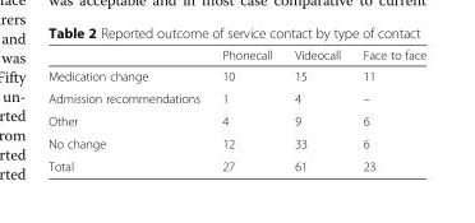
<table><thead><tr><td></td><td>Phonecall</td><td>Videocall</td><td>Face to face</td></tr></thead><tbody><tr><td>Medication change</td><td>10</td><td>15</td><td>11</td></tr><tr><td>Admission recommendations</td><td>1</td><td>4</td><td>–</td></tr><tr><td>Other</td><td>4</td><td>9</td><td>6</td></tr><tr><td>No change</td><td>12</td><td>33</td><td>6</td></tr><tr><td>Total</td><td>27</td><td>61</td><td>23</td></tr></tbody></table>